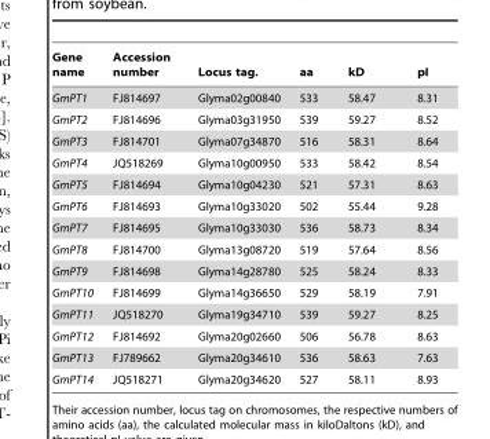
<table><thead><tr><td>Gene name</td><td>Accession number</td><td>Locus tag.</td><td>aa</td><td>kD</td><td>pI</td></tr></thead><tbody><tr><td>GmPT1</td><td>FJ814697</td><td>Glyma02g00840</td><td>533</td><td>58.47</td><td>8.31</td></tr><tr><td>GmPT2</td><td>FJ814696</td><td>Glyma03g31950</td><td>539</td><td>59.27</td><td>8.52</td></tr><tr><td>GmPT3</td><td>FJ814701</td><td>Glyma07g34870</td><td>516</td><td>58.31</td><td>8.64</td></tr><tr><td>GmPT4</td><td>JQ518269</td><td>Glyma10g00950</td><td>533</td><td>58.42</td><td>8.54</td></tr><tr><td>GmPT5</td><td>FJ814694</td><td>Glyma10g04230</td><td>521</td><td>57.31</td><td>8.63</td></tr><tr><td>GmPT6</td><td>FJ814693</td><td>Glyma10g33020</td><td>502</td><td>55.44</td><td>9.28</td></tr><tr><td>GmPT7</td><td>FJ814695</td><td>Glyma10g33030</td><td>536</td><td>58.73</td><td>8.34</td></tr><tr><td>GmPT8</td><td>FJ814700</td><td>Glyma13g08720</td><td>519</td><td>57.64</td><td>8.56</td></tr><tr><td>GmPT9</td><td>FJ814698</td><td>Glyma14g28780</td><td>525</td><td>58.24</td><td>8.33</td></tr><tr><td>GmPT10</td><td>FJ814699</td><td>Glyma14g36650</td><td>529</td><td>58.19</td><td>7.91</td></tr><tr><td>GmPT11</td><td>JQ518270</td><td>Glyma19g34710</td><td>539</td><td>59.27</td><td>8.25</td></tr><tr><td>GmPT12</td><td>FJ814692</td><td>Glyma20g02660</td><td>506</td><td>56.78</td><td>8.63</td></tr><tr><td>GmPT13</td><td>FJ789662</td><td>Glyma20g34610</td><td>536</td><td>58.63</td><td>7.63</td></tr><tr><td>GmPT14</td><td>JQ518271</td><td>Glyma20g34620</td><td>527</td><td>58.11</td><td>8.93</td></tr></tbody></table>